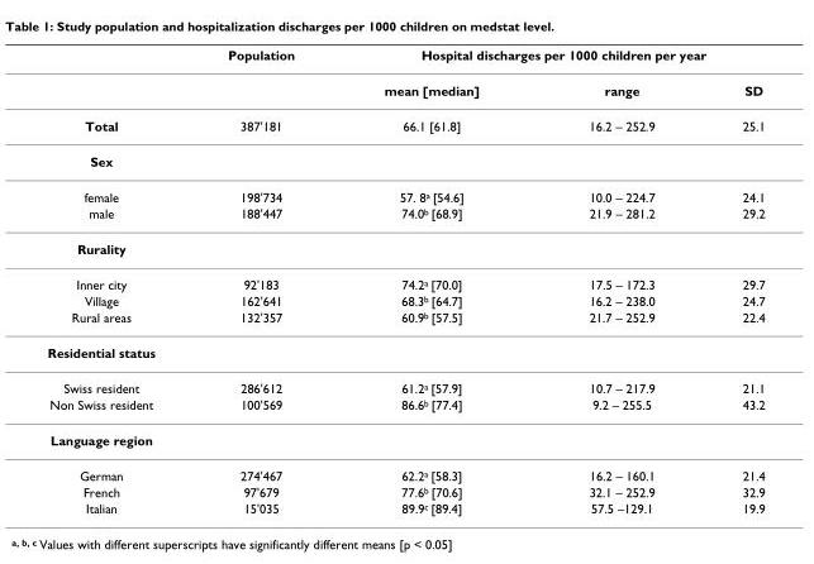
<table><thead><tr><td rowspan="2"></td><td rowspan="2">Population</td><td colspan="3">Hospital discharges per 1000 children per year</td></tr><tr><td>mean [median]</td><td>range</td><td>SD</td></tr></thead><tbody><tr><td>Total</td><td>387&#x27;181</td><td>66.1 [61.8]</td><td>16.2 – 252.9</td><td>25.1</td></tr><tr><td colspan="5">Sex</td></tr><tr><td>female</td><td>198&#x27;734</td><td>57. 8<sup>a</sup> [54.6]</td><td>10.0 – 224.7</td><td>24.1</td></tr><tr><td>male</td><td>188&#x27;447</td><td>74.0<sup>b</sup> [68.9]</td><td>21.9 – 281.2</td><td>29.2</td></tr><tr><td colspan="5">Rurality</td></tr><tr><td>Inner city</td><td>92&#x27;183</td><td>74.2<sup>a</sup> [70.0]</td><td>17.5 – 172.3</td><td>29.7</td></tr><tr><td>Village</td><td>162&#x27;641</td><td>68.3<sup>b</sup> [64.7]</td><td>16.2 – 238.0</td><td>24.7</td></tr><tr><td>Rural areas</td><td>132&#x27;357</td><td>60.9<sup>b</sup> [57.5]</td><td>21.7 – 252.9</td><td>22.4</td></tr><tr><td colspan="5">Residential status</td></tr><tr><td>Swiss resident</td><td>286&#x27;612</td><td>61.2<sup>a</sup> [57.9]</td><td>10.7 – 217.9</td><td>21.1</td></tr><tr><td>Non Swiss resident</td><td>100&#x27;569</td><td>86.6<sup>b</sup> [77.4]</td><td>9.2 – 255.5</td><td>43.2</td></tr><tr><td colspan="5">Language region</td></tr><tr><td>German</td><td>274&#x27;467</td><td>62.2<sup>a</sup> [58.3]</td><td>16.2 – 160.1</td><td>21.4</td></tr><tr><td>French</td><td>97&#x27;679</td><td>77.6<sup>b</sup> [70.6]</td><td>32.1 – 252.9</td><td>32.9</td></tr><tr><td>Italian</td><td>15&#x27;035</td><td>89.9<sup>c</sup> [89.4]</td><td>57.5 –129.1</td><td>19.9</td></tr></tbody></table>